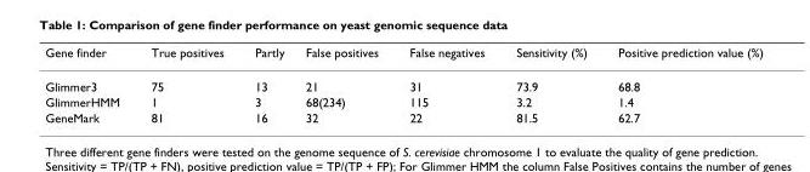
<table><thead><tr><td>Gene finder</td><td>True positives</td><td>Partly</td><td>False positives</td><td>False negatives</td><td>Sensitivity (%)</td><td>Positive prediction value (%)</td></tr></thead><tbody><tr><td>Glimmer3</td><td>75</td><td>13</td><td>21</td><td>31</td><td>73.9</td><td>68.8</td></tr><tr><td>GlimmerHMM</td><td>1</td><td>3</td><td>68(234)</td><td>115</td><td>3.2</td><td>1.4</td></tr><tr><td>GeneMark</td><td>81</td><td>16</td><td>32</td><td>22</td><td>81.5</td><td>62.7</td></tr></tbody></table>